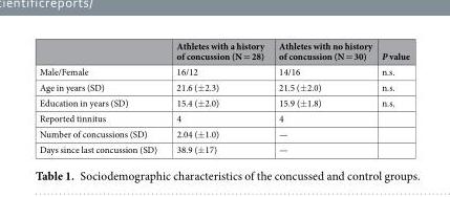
<table><thead><tr><td></td><td>Athletes with a history of concussion (N = 28)</td><td>Athletes with no history of concussion (N = 30)</td><td>P value</td></tr></thead><tbody><tr><td>Male/Female</td><td>16/12</td><td>14/16</td><td>n.s.</td></tr><tr><td>Age in years (SD)</td><td>21.6 (±2.3)</td><td>21.5 (±2.0)</td><td>n.s.</td></tr><tr><td>Education in years (SD)</td><td>15.4 (±2.0)</td><td>15.9 (±1.8)</td><td>n.s.</td></tr><tr><td>Reported tinnitus</td><td>4</td><td>4</td><td></td></tr><tr><td>Number of concussions (SD)</td><td>2.04 (±1.0)</td><td>—</td><td></td></tr><tr><td>Days since last concussion (SD)</td><td>38.9 (±17)</td><td>—</td><td></td></tr></tbody></table>